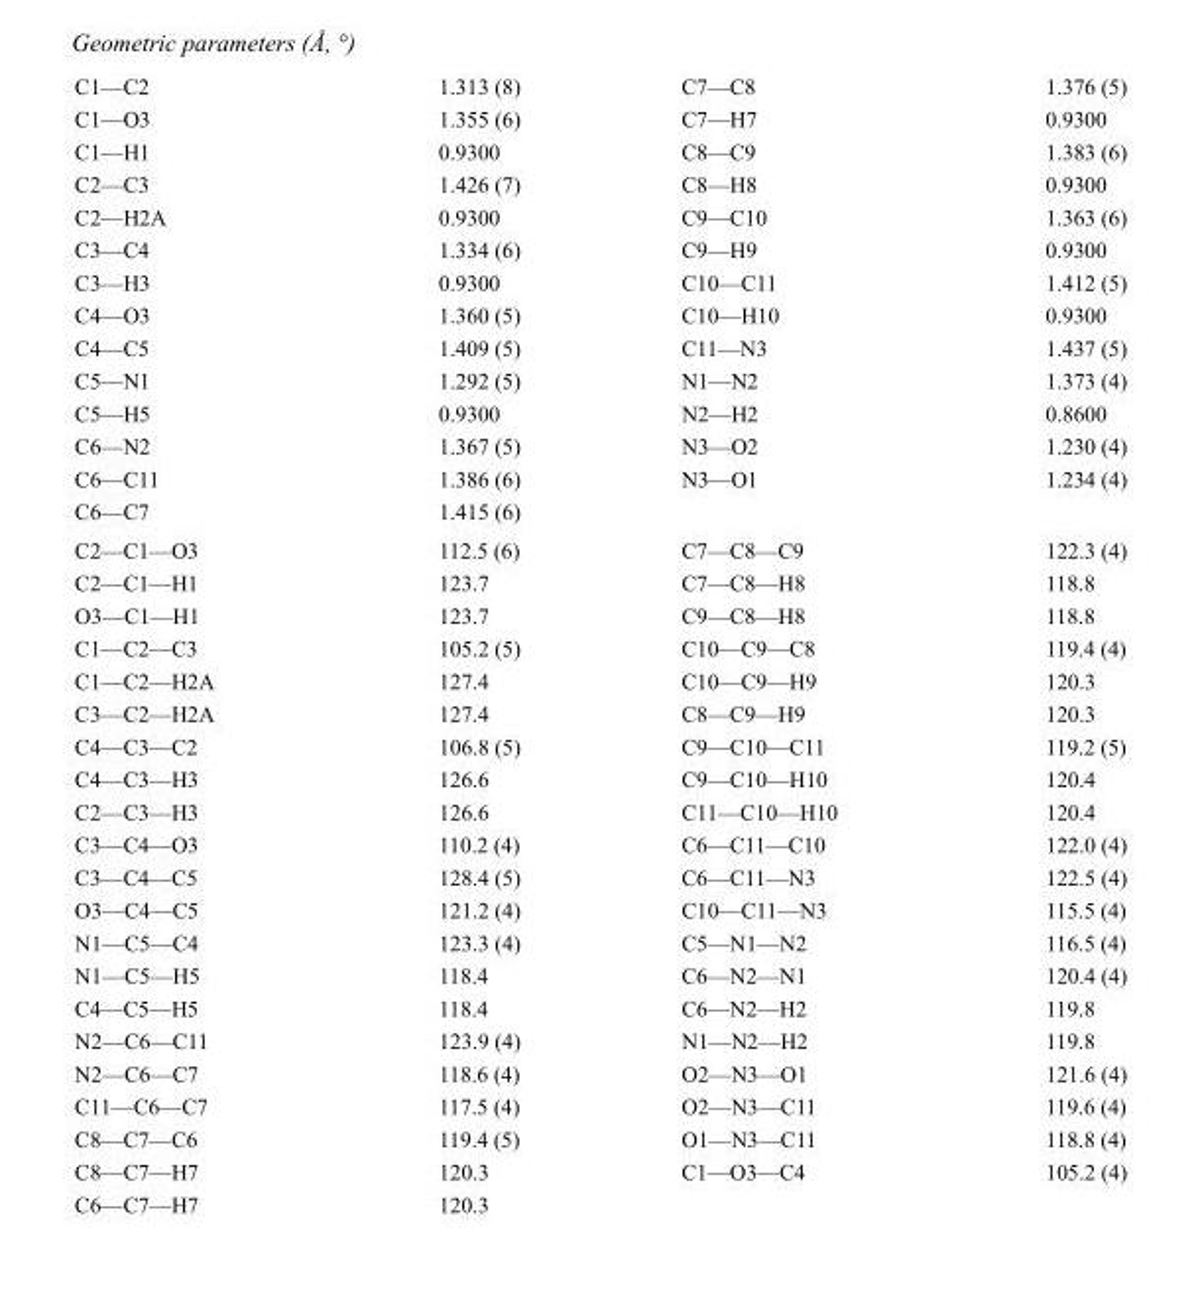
<table><tbody><tr><td>C1—C2</td><td>1.313 (8)</td><td>C7—C8</td><td>1.376 (5)</td></tr><tr><td>C1—O3</td><td>1.355 (6)</td><td>C7—H7</td><td>0.9300</td></tr><tr><td>C1—H1</td><td>0.9300</td><td>C8—C9</td><td>1.383 (6)</td></tr><tr><td>C2—C3</td><td>1.426 (7)</td><td>C8—H8</td><td>0.9300</td></tr><tr><td>C2—H2A</td><td>0.9300</td><td>C9—C10</td><td>1.363 (6)</td></tr><tr><td>C3—C4</td><td>1.334 (6)</td><td>C9—H9</td><td>0.9300</td></tr><tr><td>C3—H3</td><td>0.9300</td><td>C10—C11</td><td>1.412 (5)</td></tr><tr><td>C4—O3</td><td>1.360 (5)</td><td>C10—H10</td><td>0.9300</td></tr><tr><td>C4—C5</td><td>1.409 (5)</td><td>C11—N3</td><td>1.437 (5)</td></tr><tr><td>C5—N1</td><td>1.292 (5)</td><td>N1—N2</td><td>1.373 (4)</td></tr><tr><td>C5—H5</td><td>0.9300</td><td>N2—H2</td><td>0.8600</td></tr><tr><td>C6—N2</td><td>1.367 (5)</td><td>N3—O2</td><td>1.230 (4)</td></tr><tr><td>C6—C11</td><td>1.386 (6)</td><td>N3—O1</td><td>1.234 (4)</td></tr><tr><td>C6—C7</td><td>1.415 (6)</td><td></td><td></td></tr><tr><td>C2—C1—O3</td><td>112.5 (6)</td><td>C7—C8—C9</td><td>122.3 (4)</td></tr><tr><td>C2—C1—H1</td><td>123.7</td><td>C7—C8—H8</td><td>118.8</td></tr><tr><td>O3—C1—H1</td><td>123.7</td><td>C9—C8—H8</td><td>118.8</td></tr><tr><td>C1—C2—C3</td><td>105.2 (5)</td><td>C10—C9—C8</td><td>119.4 (4)</td></tr><tr><td>C1—C2—H2A</td><td>127.4</td><td>C10—C9—H9</td><td>120.3</td></tr><tr><td>C3—C2—H2A</td><td>127.4</td><td>C8—C9—H9</td><td>120.3</td></tr><tr><td>C4—C3—C2</td><td>106.8 (5)</td><td>C9—C10—C11</td><td>119.2 (5)</td></tr><tr><td>C4—C3—H3</td><td>126.6</td><td>C9—C10—H10</td><td>120.4</td></tr><tr><td>C2—C3—H3</td><td>126.6</td><td>C11—C10—H10</td><td>120.4</td></tr><tr><td>C3—C4—O3</td><td>110.2 (4)</td><td>C6—C11—C10</td><td>122.0 (4)</td></tr><tr><td>C3—C4—C5</td><td>128.4 (5)</td><td>C6—C11—N3</td><td>122.5 (4)</td></tr><tr><td>O3—C4—C5</td><td>121.2 (4)</td><td>C10—C11—N3</td><td>115.5 (4)</td></tr><tr><td>N1—C5—C4</td><td>123.3 (4)</td><td>C5—N1—N2</td><td>116.5 (4)</td></tr><tr><td>N1—C5—H5</td><td>118.4</td><td>C6—N2—N1</td><td>120.4 (4)</td></tr><tr><td>C4—C5—H5</td><td>118.4</td><td>C6—N2—H2</td><td>119.8</td></tr><tr><td>N2—C6—C11</td><td>123.9 (4)</td><td>N1—N2—H2</td><td>119.8</td></tr><tr><td>N2—C6—C7</td><td>118.6 (4)</td><td>O2—N3—O1</td><td>121.6 (4)</td></tr><tr><td>C11—C6—C7</td><td>117.5 (4)</td><td>O2—N3—C11</td><td>119.6 (4)</td></tr><tr><td>C8—C7—C6</td><td>119.4 (5)</td><td>O1—N3—C11</td><td>118.8 (4)</td></tr><tr><td>C8—C7—H7</td><td>120.3</td><td>C1—O3—C4</td><td>105.2 (4)</td></tr><tr><td>C6—C7—H7</td><td>120.3</td><td></td><td></td></tr></tbody></table>